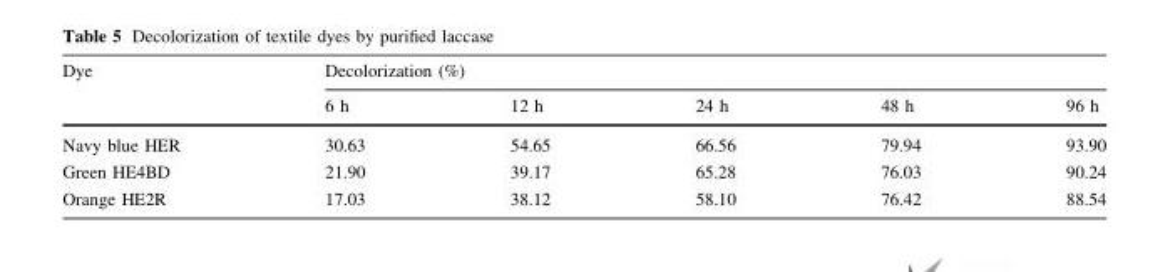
<table><thead><tr><td rowspan="2">Dye</td><td colspan="5">Decolorization (%)</td></tr><tr><td>6 h</td><td>12 h</td><td>24 h</td><td>48 h</td><td>96 h</td></tr></thead><tbody><tr><td>Navy blue HER</td><td>30.63</td><td>54.65</td><td>66.56</td><td>79.94</td><td>93.90</td></tr><tr><td>Green HE4BD</td><td>21.90</td><td>39.17</td><td>65.28</td><td>76.03</td><td>90.24</td></tr><tr><td>Orange HE2R</td><td>17.03</td><td>38.12</td><td>58.10</td><td>76.42</td><td>88.54</td></tr></tbody></table>